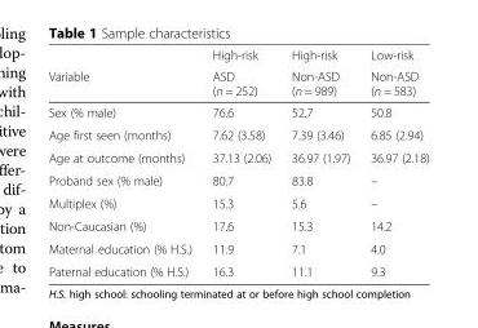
<table><thead><tr><td rowspan="2">Variable</td><td rowspan="2">High-risk ASD (n = 252)</td><td rowspan="2">High-risk Non-ASD (n = 989)</td><td rowspan="2">Low-risk Non-ASD (n = 583)</td></tr><tr></tr></thead><tbody><tr><td>Sex (% male)</td><td>76.6</td><td>52.7</td><td>50.8</td></tr><tr><td>Age first seen (months)</td><td>7.62 (3.58)</td><td>7.39 (3.46)</td><td>6.85 (2.94)</td></tr><tr><td>Age at outcome (months)</td><td>37.13 (2.06)</td><td>36.97 (1.97)</td><td>36.97 (2.18)</td></tr><tr><td>Proband sex (% male)</td><td>80.7</td><td>83.8</td><td>–</td></tr><tr><td>Multiplex (%)</td><td>15.3</td><td>5.6</td><td>–</td></tr><tr><td>Non-Caucasian (%)</td><td>17.6</td><td>15.3</td><td>14.2</td></tr><tr><td>Maternal education (% H.S.)</td><td>11.9</td><td>7.1</td><td>4.0</td></tr><tr><td>Paternal education (% H.S.)</td><td>16.3</td><td>11.1</td><td>9.3</td></tr></tbody></table>